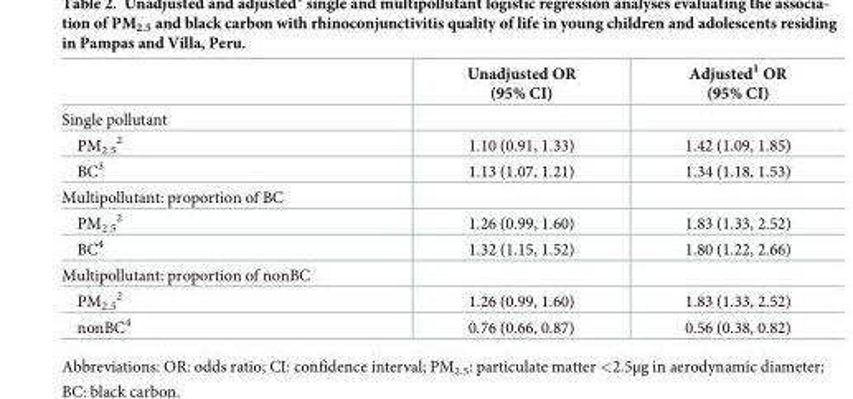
<table><thead><tr><td></td><td>Unadjusted OR (95% CI)</td><td>Adjusted<sup>1</sup> OR (95% CI)</td></tr></thead><tbody><tr><td colspan="3">Single pollutant</td></tr><tr><td>PM<sub>2.5</sub> <sup>2</sup></td><td>1.10 (0.91, 1.33)</td><td>1.42 (1.09, 1.85)</td></tr><tr><td>BC<sup>3</sup></td><td>1.13 (1.07, 1.21)</td><td>1.34 (1.18, 1.53)</td></tr><tr><td colspan="3">Multipollutant: proportion of BC</td></tr><tr><td>PM<sub>2.5</sub> <sup>2</sup></td><td>1.26 (0.99, 1.60)</td><td>1.83 (1.33, 2.52)</td></tr><tr><td>BC<sup>4</sup></td><td>1.32 (1.15, 1.52)</td><td>1.80 (1.22, 2.66)</td></tr><tr><td colspan="3">Multipollutant: proportion of nonBC</td></tr><tr><td>PM<sub>2.5</sub> <sup>2</sup></td><td>1.26 (0.99, 1.60)</td><td>1.83 (1.33, 2.52)</td></tr><tr><td>nonBC<sup>4</sup></td><td>0.76 (0.66, 0.87)</td><td>0.56 (0.38, 0.82)</td></tr></tbody></table>